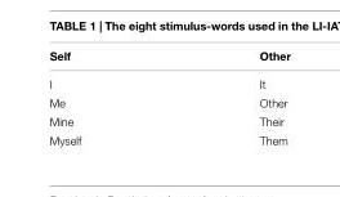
<table><thead><tr><td>Self</td><td>Other</td></tr></thead><tbody><tr><td>I</td><td>It</td></tr><tr><td>Me</td><td>Other</td></tr><tr><td>Mine</td><td>Their</td></tr><tr><td>Myself</td><td>Them</td></tr></tbody></table>